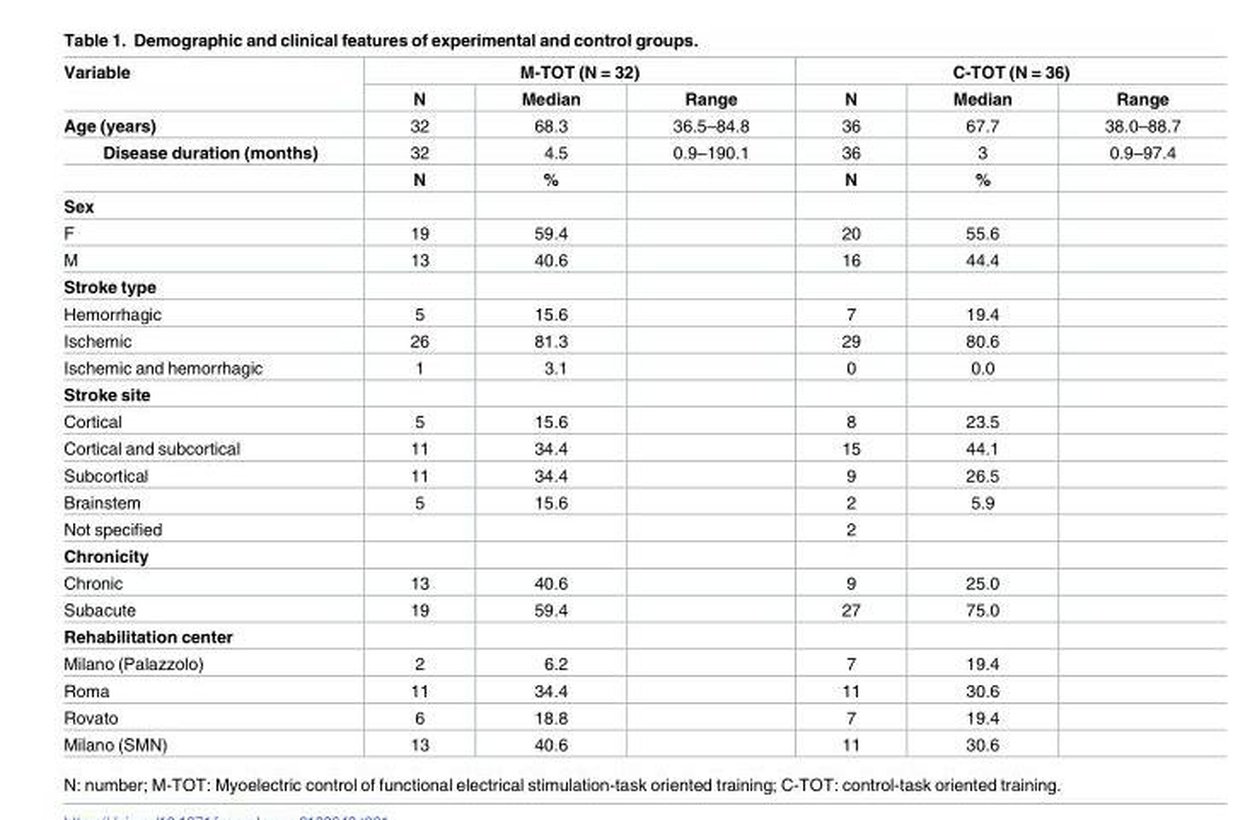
<table><thead><tr><td rowspan="2">Variable</td><td colspan="3">M-TOT (N = 32)</td><td colspan="3">C-TOT (N = 36)</td></tr><tr><td>N</td><td>Median</td><td>Range</td><td>N</td><td>Median</td><td>Range</td></tr></thead><tbody><tr><td>Age (years)</td><td>32</td><td>68.3</td><td>36.5–84.8</td><td>36</td><td>67.7</td><td>38.0–88.7</td></tr><tr><td rowspan="2">Disease duration (months)</td><td>32</td><td>4.5</td><td>0.9–190.1</td><td>36</td><td>3</td><td>0.9–97.4</td></tr><tr><td>N</td><td>%</td><td></td><td>N</td><td>%</td><td></td></tr><tr><td colspan="7">Sex</td></tr><tr><td>F</td><td>19</td><td>59.4</td><td></td><td>20</td><td>55.6</td><td></td></tr><tr><td>M</td><td>13</td><td>40.6</td><td></td><td>16</td><td>44.4</td><td></td></tr><tr><td colspan="7">Stroke type</td></tr><tr><td>Hemorrhagic</td><td>5</td><td>15.6</td><td></td><td>7</td><td>19.4</td><td></td></tr><tr><td>Ischemic</td><td>26</td><td>81.3</td><td></td><td>29</td><td>80.6</td><td></td></tr><tr><td>Ischemic and hemorrhagic</td><td>1</td><td>3.1</td><td></td><td>0</td><td>0.0</td><td></td></tr><tr><td colspan="7">Stroke site</td></tr><tr><td>Cortical</td><td>5</td><td>15.6</td><td></td><td>8</td><td>23.5</td><td></td></tr><tr><td>Cortical and subcortical</td><td>11</td><td>34.4</td><td></td><td>15</td><td>44.1</td><td></td></tr><tr><td>Subcortical</td><td>11</td><td>34.4</td><td></td><td>9</td><td>26.5</td><td></td></tr><tr><td>Brainstem</td><td>5</td><td>15.6</td><td></td><td>2</td><td>5.9</td><td></td></tr><tr><td>Not specified</td><td></td><td></td><td></td><td>2</td><td></td><td></td></tr><tr><td colspan="7">Chronicity</td></tr><tr><td>Chronic</td><td>13</td><td>40.6</td><td></td><td>9</td><td>25.0</td><td></td></tr><tr><td>Subacute</td><td>19</td><td>59.4</td><td></td><td>27</td><td>75.0</td><td></td></tr><tr><td colspan="7">Rehabilitation center</td></tr><tr><td>Milano (Palazzolo)</td><td>2</td><td>6.2</td><td></td><td>7</td><td>19.4</td><td></td></tr><tr><td>Roma</td><td>11</td><td>34.4</td><td></td><td>11</td><td>30.6</td><td></td></tr><tr><td>Rovato</td><td>6</td><td>18.8</td><td></td><td>7</td><td>19.4</td><td></td></tr><tr><td>Milano (SMN)</td><td>13</td><td>40.6</td><td></td><td>11</td><td>30.6</td><td></td></tr></tbody></table>